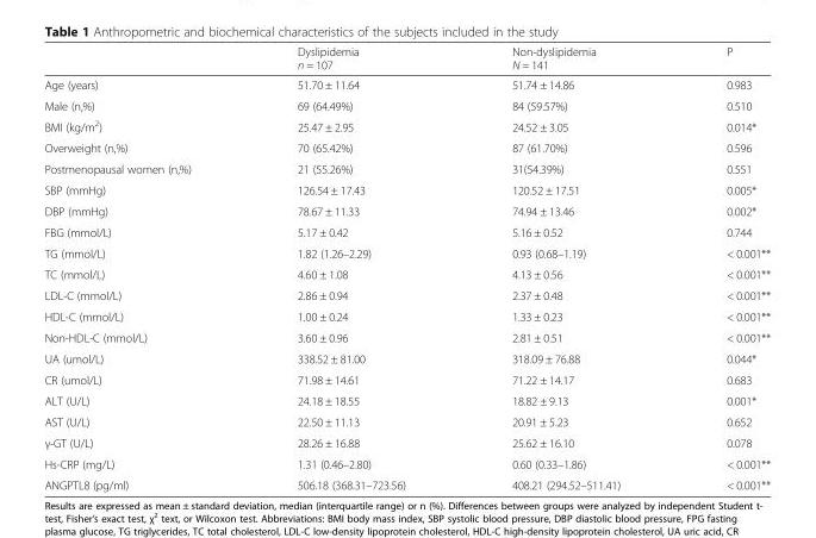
<table><thead><tr><td></td><td>Dyslipidemia n = 107</td><td>Non-dyslipidemia N = 141</td><td>P</td></tr></thead><tbody><tr><td>Age (years)</td><td>51.70 ± 11.64</td><td>51.74 ± 14.86</td><td>0.983</td></tr><tr><td>Male (n,%)</td><td>69 (64.49%)</td><td>84 (59.57%)</td><td>0.510</td></tr><tr><td>BMI (kg/m<sup>2</sup>)</td><td>25.47 ± 2.95</td><td>24.52 ± 3.05</td><td>0.014*</td></tr><tr><td>Overweight (n,%)</td><td>70 (65.42%)</td><td>87 (61.70%)</td><td>0.596</td></tr><tr><td>Postmenopausal women (n,%)</td><td>21 (55.26%)</td><td>31(54.39%)</td><td>0.551</td></tr><tr><td>SBP (mmHg)</td><td>126.54 ± 17.43</td><td>120.52 ± 17.51</td><td>0.005*</td></tr><tr><td>DBP (mmHg)</td><td>78.67 ± 11.33</td><td>74.94 ± 13.46</td><td>0.002*</td></tr><tr><td>FBG (mmol/L)</td><td>5.17 ± 0.42</td><td>5.16 ± 0.52</td><td>0.744</td></tr><tr><td>TG (mmol/L)</td><td>1.82 (1.26–2.29)</td><td>0.93 (0.68–1.19)</td><td>&lt; 0.001**</td></tr><tr><td>TC (mmol/L)</td><td>4.60 ± 1.08</td><td>4.13 ± 0.56</td><td>&lt; 0.001**</td></tr><tr><td>LDL-C (mmol/L)</td><td>2.86 ± 0.94</td><td>2.37 ± 0.48</td><td>&lt; 0.001**</td></tr><tr><td>HDL-C (mmol/L)</td><td>1.00 ± 0.24</td><td>1.33 ± 0.23</td><td>&lt; 0.001**</td></tr><tr><td>Non-HDL-C (mmol/L)</td><td>3.60 ± 0.96</td><td>2.81 ± 0.51</td><td>&lt; 0.001**</td></tr><tr><td>UA (umol/L)</td><td>338.52 ± 81.00</td><td>318.09 ± 76.88</td><td>0.044*</td></tr><tr><td>CR (umol/L)</td><td>71.98 ± 14.61</td><td>71.22 ± 14.17</td><td>0.683</td></tr><tr><td>ALT (U/L)</td><td>24.18 ± 18.55</td><td>18.82 ± 9.13</td><td>0.001*</td></tr><tr><td>AST (U/L)</td><td>22.50 ± 11.13</td><td>20.91 ± 5.23</td><td>0.652</td></tr><tr><td>γ-GT (U/L)</td><td>28.26 ± 16.88</td><td>25.62 ± 16.10</td><td>0.078</td></tr><tr><td>Hs-CRP (mg/L)</td><td>1.31 (0.46–2.80)</td><td>0.60 (0.33–1.86)</td><td>&lt; 0.001**</td></tr><tr><td>ANGPTL8 (pg/ml)</td><td>506.18 (368.31–723.56)</td><td>408.21 (294.52–511.41)</td><td>&lt; 0.001**</td></tr></tbody></table>